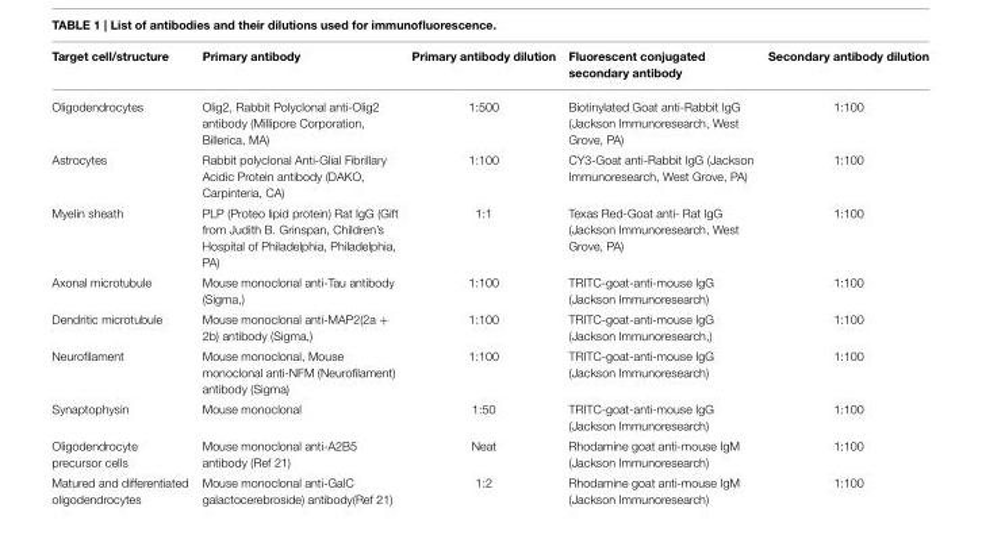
<table><thead><tr><td>Target cell/structure</td><td>Primary antibody</td><td>Primary antibody dilution</td><td>Fluorescent conjugated secondary antibody</td><td>Secondary antibody dilution</td></tr></thead><tbody><tr><td>Oligodendrocytes</td><td>Olig2, Rabbit Polyclonal anti-Olig2 antibody (Millipore Corporation, Billerica, MA)</td><td>1:500</td><td>Biotinylated Goat anti-Rabbit IgG (Jackson Immunoresearch, West Grove, PA)</td><td>1:100</td></tr><tr><td>Astrocytes</td><td>Rabbit polyclonal Anti-Glial Fibrillary Acidic Protein antibody (DAKO, Carpinteria, CA)</td><td>1:100</td><td>CY3-Goat anti-Rabbit IgG (Jackson Immunoresearch, West Grove, PA)</td><td>1:100</td></tr><tr><td>Myelin sheath</td><td>PLP (Proteo lipid protein) Rat IgG (Gift from Judith B. Grinspan, Children’s Hospital of Philadelphia, Philadelphia, PA)</td><td>1:1</td><td>Texas Red-Goat anti- Rat IgG (Jackson Immunoresearch, West Grove, PA)</td><td>1:100</td></tr><tr><td>Axonal microtubule</td><td>Mouse monoclonal anti-Tau antibody (Sigma,)</td><td>1:100</td><td>TRITC-goat-anti-mouse IgG (Jackson Immunoresearch)</td><td>1:100</td></tr><tr><td>Dendritic microtubule</td><td>Mouse monoclonal anti-MAP2(2a + 2b) antibody (Sigma,)</td><td>1:100</td><td>TRITC-goat-anti-mouse IgG (Jackson Immunoresearch,)</td><td>1:100</td></tr><tr><td>Neurofilament</td><td>Mouse monoclonal, Mouse monoclonal anti-NFM (Neurofilament) antibody (Sigma)</td><td>1:100</td><td>TRITC-goat-anti-mouse IgG (Jackson Immunoresearch)</td><td>1:100</td></tr><tr><td>Synaptophysin</td><td>Mouse monoclonal</td><td>1:50</td><td>TRITC-goat-anti-mouse IgG (Jackson Immunoresearch)</td><td>1:100</td></tr><tr><td>Oligodendrocyte precursor cells</td><td>Mouse monoclonal anti-A2B5 antibody (Ref 21)</td><td>Neat</td><td>Rhodamine goat anti-mouse IgM (Jackson Immunoresearch)</td><td>1:100</td></tr><tr><td>Matured and differentiated oligodendrocytes</td><td>Mouse monoclonal anti-GalC galactocerebroside) antibody(Ref 21)</td><td>1:2</td><td>Rhodamine goat anti-mouse IgM (Jackson Immunoresearch)</td><td>1:100</td></tr></tbody></table>